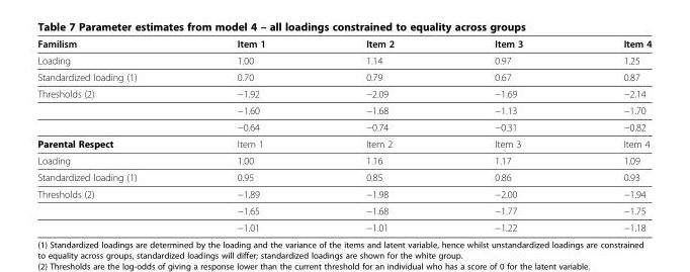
<table><thead><tr><td>Familism</td><td>Item 1</td><td>Item 2</td><td>Item 3</td><td>Item 4</td></tr></thead><tbody><tr><td>Loading</td><td>1.00</td><td>1.14</td><td>0.97</td><td>1.25</td></tr><tr><td>Standardized loading (1)</td><td>0.70</td><td>0.79</td><td>0.67</td><td>0.87</td></tr><tr><td rowspan="3">Thresholds (2)</td><td>−1.92</td><td>−2.09</td><td>−1.69</td><td>−2.14</td></tr><tr><td>−1.60</td><td>−1.68</td><td>−1.13</td><td>−1.70</td></tr><tr><td>−0.64</td><td>−0.74</td><td>−0.31</td><td>−0.82</td></tr><tr><td>Parental Respect</td><td>Item 1</td><td>Item 2</td><td>Item 3</td><td>Item 4</td></tr><tr><td>Loading</td><td>1.00</td><td>1.16</td><td>1.17</td><td>1.09</td></tr><tr><td>Standardized loading (1)</td><td>0.95</td><td>0.85</td><td>0.86</td><td>0.93</td></tr><tr><td rowspan="3">Thresholds (2)</td><td>−1.89</td><td>−1.98</td><td>−2.00</td><td>−1.94</td></tr><tr><td>−1.65</td><td>−1.68</td><td>−1.77</td><td>−1.75</td></tr><tr><td>−1.01</td><td>−1.01</td><td>−1.22</td><td>−1.18</td></tr></tbody></table>